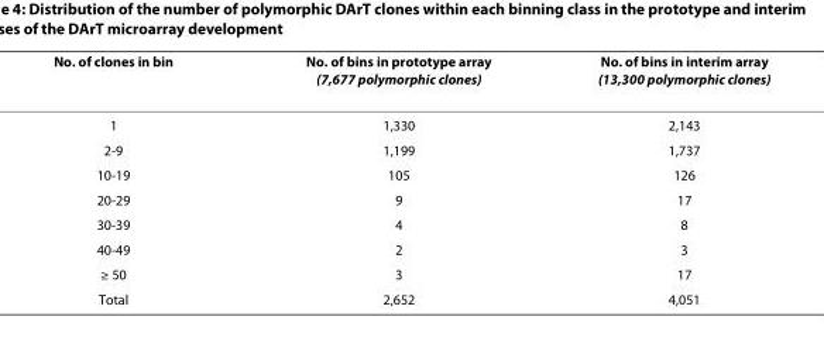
<table><thead><tr><td>No. of clones in bin</td><td>No. of bins in prototype array (7,677 polymorphic clones)</td><td>No. of bins in interim array (13,300 polymorphic clones)</td></tr></thead><tbody><tr><td>1</td><td>1,330</td><td>2,143</td></tr><tr><td>2-9</td><td>1,199</td><td>1,737</td></tr><tr><td>10-19</td><td>105</td><td>126</td></tr><tr><td>20-29</td><td>9</td><td>17</td></tr><tr><td>30-39</td><td>4</td><td>8</td></tr><tr><td>40-49</td><td>2</td><td>3</td></tr><tr><td>≥ 50</td><td>3</td><td>17</td></tr><tr><td>Total</td><td>2,652</td><td>4,051</td></tr></tbody></table>